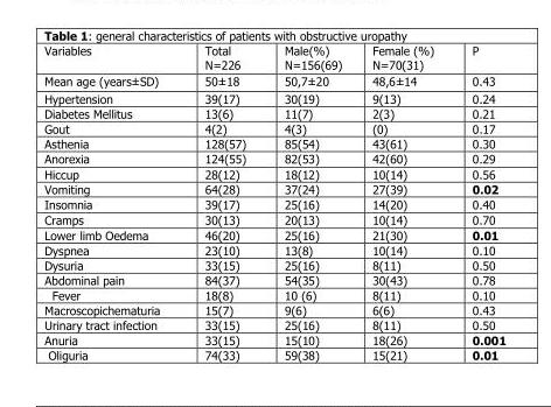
<table><thead><tr><td>Variables</td><td>Total N=226</td><td>Male(%) N=156(69)</td><td>Female (%) N=70(31)</td><td>P</td></tr></thead><tbody><tr><td>Mean age (years±SD)</td><td>50±18</td><td>50,7±20</td><td>48,6±14</td><td>0.43</td></tr><tr><td>Hypertension</td><td>39(17)</td><td>30(19)</td><td>9(13)</td><td>0.24</td></tr><tr><td>Diabetes Mellitus</td><td>13(6)</td><td>11(7)</td><td>2(3)</td><td>0.21</td></tr><tr><td>Gout</td><td>4(2)</td><td>4(3)</td><td>(0)</td><td>0.17</td></tr><tr><td>Asthenia</td><td>128(57)</td><td>85(54)</td><td>43(61)</td><td>0.30</td></tr><tr><td>Anorexia</td><td>124(55)</td><td>82(53)</td><td>42(60)</td><td>0.29</td></tr><tr><td>Hiccup</td><td>28(12)</td><td>18(12)</td><td>10(14)</td><td>0.56</td></tr><tr><td>Vomiting</td><td>64(28)</td><td>37(24)</td><td>27(39)</td><td>0.02</td></tr><tr><td>Insomnia</td><td>39(17)</td><td>25(16)</td><td>14(20)</td><td>0.40</td></tr><tr><td>Cramps</td><td>30(13)</td><td>20(13)</td><td>10(14)</td><td>0.70</td></tr><tr><td>Lower limb Oedema</td><td>46(20)</td><td>25(16)</td><td>21(30)</td><td>0.01</td></tr><tr><td>Dyspnea</td><td>23(10)</td><td>13(8)</td><td>10(14)</td><td>0.10</td></tr><tr><td>Dysuria</td><td>33(15)</td><td>25(16)</td><td>8(11)</td><td>0.50</td></tr><tr><td>Abdominal pain</td><td>84(37)</td><td>54(35)</td><td>30(43)</td><td>0.78</td></tr><tr><td>Fever</td><td>18(8)</td><td>10 (6)</td><td>8(11)</td><td>0.10</td></tr><tr><td>Macroscopichematuria</td><td>15(7)</td><td>9(6)</td><td>6(6)</td><td>0.43</td></tr><tr><td>Urinary tract infection</td><td>33(15)</td><td>25(16)</td><td>8(11)</td><td>0.50</td></tr><tr><td>Anuria</td><td>33(15)</td><td>15(10)</td><td>18(26)</td><td>0.001</td></tr><tr><td>Oliguria</td><td>74(33)</td><td>59(38)</td><td>15(21)</td><td>0.01</td></tr></tbody></table>